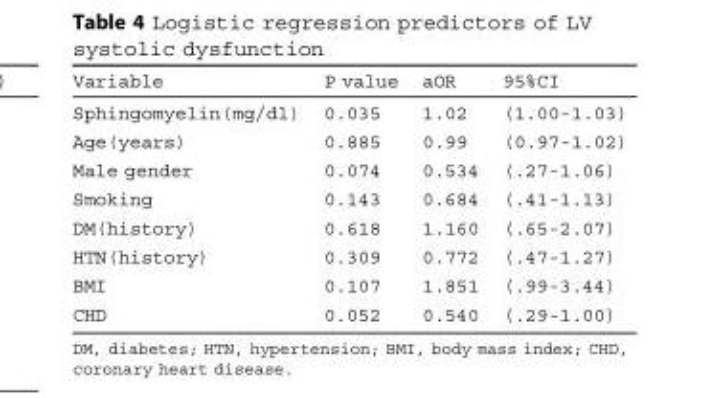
<table><thead><tr><td>Variable</td><td>P value</td><td>aOR</td><td>95%CI</td></tr></thead><tbody><tr><td>Sphingomyelin(mg/dl)</td><td>0.035</td><td>1.02</td><td>(1.00-1.03)</td></tr><tr><td>Age(years)</td><td>0.885</td><td>0.99</td><td>(0.97-1.02)</td></tr><tr><td>Male gender</td><td>0.074</td><td>0.534</td><td>(.27-1.06)</td></tr><tr><td>Smoking</td><td>0.143</td><td>0.684</td><td>(.41-1.13)</td></tr><tr><td>DM(history)</td><td>0.618</td><td>1.160</td><td>(.65-2.07)</td></tr><tr><td>HTN(history)</td><td>0.309</td><td>0.772</td><td>(.47-1.27)</td></tr><tr><td>BMI</td><td>0.107</td><td>1.851</td><td>(.99-3.44)</td></tr><tr><td>CHD</td><td>0.052</td><td>0.540</td><td>(.29-1.00)</td></tr></tbody></table>